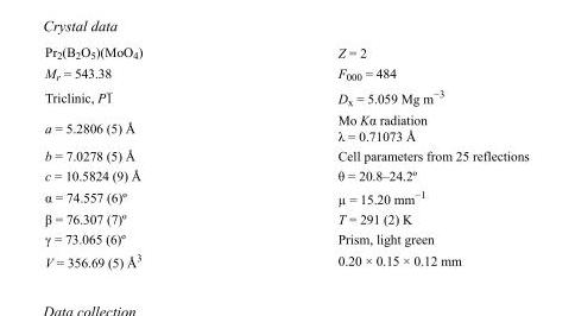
<table><tbody><tr><td>Pr<sub>2</sub>(B<sub>2</sub>O<sub>5</sub>)(MoO<sub>4</sub>)</td><td>Z = 2</td></tr><tr><td>M<sub>r</sub> = 543.38</td><td>F<sub>000</sub> = 484</td></tr><tr><td>Triclinic, P1</td><td>D<sub>x</sub> = 5.059 Mg m<sup>−3</sup></td></tr><tr><td>a = 5.2806 (5) Å</td><td>Mo Kα radiation λ = 0.71073 Å</td></tr><tr><td>b = 7.0278 (5) Å</td><td>Cell parameters from 25 reflections</td></tr><tr><td>c = 10.5824 (9) Å</td><td>θ = 20.8–24.2º</td></tr><tr><td>α = 74.557 (6)º</td><td>µ = 15.20 mm<sup>−1</sup></td></tr><tr><td>β = 76.307 (7)º</td><td>T = 291 (2) K</td></tr><tr><td>γ = 73.065 (6)º</td><td>Prism, light green</td></tr><tr><td>V = 356.69 (5) Å<sup>3</sup></td><td>0.20 × 0.15 × 0.12 mm</td></tr></tbody></table>